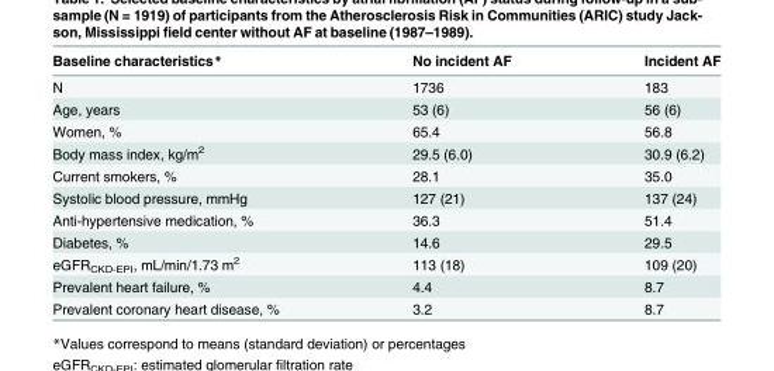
<table><thead><tr><td>Baseline characteristics*</td><td>No incident AF</td><td>Incident AF</td></tr></thead><tbody><tr><td>N</td><td>1736</td><td>183</td></tr><tr><td>Age, years</td><td>53 (6)</td><td>56 (6)</td></tr><tr><td>Women, %</td><td>65.4</td><td>56.8</td></tr><tr><td>Body mass index, kg/m<sup>2</sup></td><td>29.5 (6.0)</td><td>30.9 (6.2)</td></tr><tr><td>Current smokers, %</td><td>28.1</td><td>35.0</td></tr><tr><td>Systolic blood pressure, mmHg</td><td>127 (21)</td><td>137 (24)</td></tr><tr><td>Anti-hypertensive medication, %</td><td>36.3</td><td>51.4</td></tr><tr><td>Diabetes, %</td><td>14.6</td><td>29.5</td></tr><tr><td>eGFR<sub>CKD-EPI</sub>, mL/min/1.73 m<sup>2</sup></td><td>113 (18)</td><td>109 (20)</td></tr><tr><td>Prevalent heart failure, %</td><td>4.4</td><td>8.7</td></tr><tr><td>Prevalent coronary heart disease, %</td><td>3.2</td><td>8.7</td></tr></tbody></table>